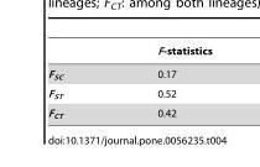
<table><thead><tr><td></td><td>F-statistics</td></tr></thead><tbody><tr><td>F<sub>SC</sub></td><td>0.17</td></tr><tr><td>F<sub>ST</sub></td><td>0.52</td></tr><tr><td>F<sub>CT</sub></td><td>0.42</td></tr></tbody></table>